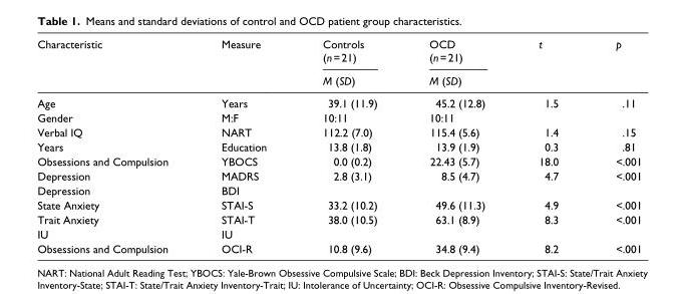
<table><thead><tr><td rowspan="2">Characteristic</td><td rowspan="2">Measure</td><td rowspan="2">Controls (n = 21) M (SD)</td><td rowspan="2">OCD (n = 21) M (SD)</td><td rowspan="2">t</td><td rowspan="2">p</td></tr><tr></tr></thead><tbody><tr><td>Age</td><td>Years</td><td>39.1 (11.9)</td><td>45.2 (12.8)</td><td>1.5</td><td>.11</td></tr><tr><td>Gender</td><td>M:F</td><td>10:11</td><td>10:11</td><td></td><td></td></tr><tr><td>Verbal IQ</td><td>NART</td><td>112.2 (7.0)</td><td>115.4 (5.6)</td><td>1.4</td><td>.15</td></tr><tr><td>Years</td><td>Education</td><td>13.8 (1.8)</td><td>13.9 (1.9)</td><td>0.3</td><td>.81</td></tr><tr><td>Obsessions and Compulsion</td><td>YBOCS</td><td>0.0 (0.2)</td><td>22.43 (5.7)</td><td>18.0</td><td>&lt;.001</td></tr><tr><td>Depression</td><td>MADRS</td><td>2.8 (3.1)</td><td>8.5 (4.7)</td><td>4.7</td><td>&lt;.001</td></tr><tr><td>Depression</td><td>BDI</td><td></td><td></td><td></td><td></td></tr><tr><td>State Anxiety</td><td>STAI-S</td><td>33.2 (10.2)</td><td>49.6 (11.3)</td><td>4.9</td><td>&lt;.001</td></tr><tr><td>Trait Anxiety</td><td>STAI-T</td><td>38.0 (10.5)</td><td>63.1 (8.9)</td><td>8.3</td><td>&lt;.001</td></tr><tr><td>IU</td><td>IU</td><td></td><td></td><td></td><td></td></tr><tr><td>Obsessions and Compulsion</td><td>OCI-R</td><td>10.8 (9.6)</td><td>34.8 (9.4)</td><td>8.2</td><td>&lt;.001</td></tr></tbody></table>